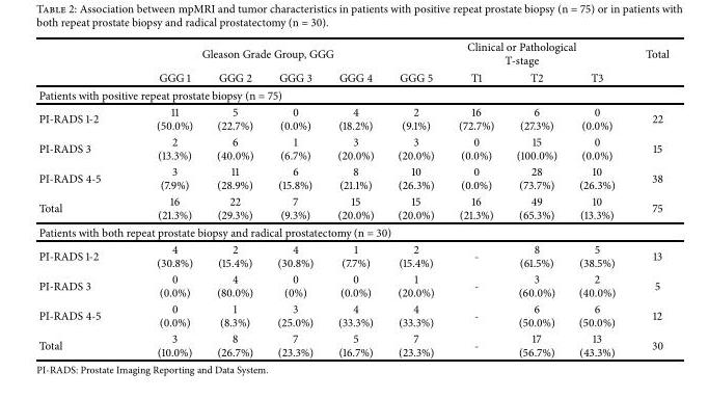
<table><thead><tr><td rowspan="2"></td><td colspan="5">Gleason Grade Group, GGG</td><td colspan="3">Clinical or Pathological T-stage</td><td rowspan="2">Total</td></tr><tr><td>GGG 1</td><td>GGG 2</td><td>GGG 3</td><td>GGG 4</td><td>GGG 5</td><td>T1</td><td>T2</td><td>T3</td></tr></thead><tbody><tr><td colspan="10">Patients with positive repeat prostate biopsy (n = 75)</td></tr><tr><td>PI-RADS 1-2</td><td>11 (50.0%)</td><td>5 (22.7%)</td><td>0 (0.0%)</td><td>4 (18.2%)</td><td>2 (9.1%)</td><td>16 (72.7%)</td><td>6 (27.3%)</td><td>0 (0.0%)</td><td>22</td></tr><tr><td>PI-RADS 3</td><td>2 (13.3%)</td><td>6 (40.0%)</td><td>1 (6.7%)</td><td>3 (20.0%)</td><td>3 (20.0%)</td><td>0 (0.0%)</td><td>15 (100.0%)</td><td>0 (0.0%)</td><td>15</td></tr><tr><td>PI-RADS 4-5</td><td>3 (7.9%)</td><td>11 (28.9%)</td><td>6 (15.8%)</td><td>8 (21.1%)</td><td>10 (26.3%)</td><td>0 (0.0%)</td><td>28 (73.7%)</td><td>10 (26.3%)</td><td>38</td></tr><tr><td>Total</td><td>16 (21.3%)</td><td>22 (29.3%)</td><td>7 (9.3%)</td><td>15 (20.0%)</td><td>15 (20.0%)</td><td>16 (21.3%)</td><td>49 (65.3%)</td><td>10 (13.3%)</td><td>75</td></tr><tr><td colspan="10">Patients with both repeat prostate biopsy and radical prostatectomy (n = 30)</td></tr><tr><td>PI-RADS 1-2</td><td>4 (30.8%)</td><td>2 (15.4%)</td><td>4 (30.8%)</td><td>1 (7.7%)</td><td>2 (15.4%)</td><td>-</td><td>8 (61.5%)</td><td>5 (38.5%)</td><td>13</td></tr><tr><td>PI-RADS 3</td><td>0 (0.0%)</td><td>4 (80.0%)</td><td>0 (0%)</td><td>0 (0.0%)</td><td>1 (20.0%)</td><td>-</td><td>3 (60.0%)</td><td>2 (40.0%)</td><td>5</td></tr><tr><td>PI-RADS 4-5</td><td>0 (0.0%)</td><td>1 (8.3%)</td><td>3 (25.0%)</td><td>4 (33.3%)</td><td>4 (33.3%)</td><td>-</td><td>6 (50.0%)</td><td>6 (50.0%)</td><td>12</td></tr><tr><td>Total</td><td>3 (10.0%)</td><td>8 (26.7%)</td><td>7 (23.3%)</td><td>5 (16.7%)</td><td>7 (23.3%)</td><td>-</td><td>17 (56.7%)</td><td>13 (43.3%)</td><td>30</td></tr></tbody></table>